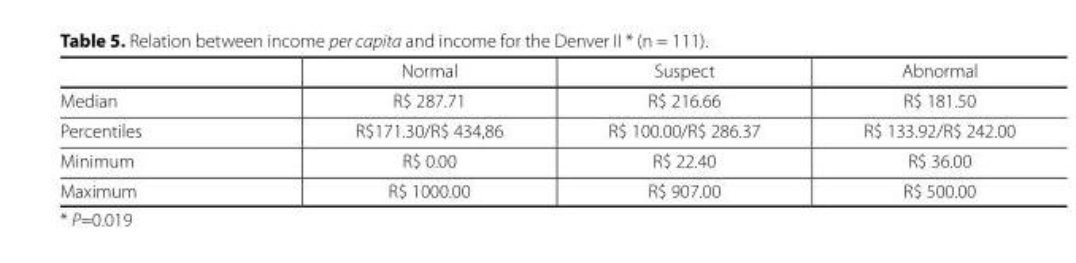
<table><thead><tr><td></td><td>Normal</td><td>Suspect</td><td>Abnormal</td></tr></thead><tbody><tr><td>Median</td><td>R$ 287.71</td><td>R$ 216.66</td><td>R$ 181.50</td></tr><tr><td>Percentiles</td><td>R$171.30/R$ 434,86</td><td>R$ 100.00/R$ 286.37</td><td>R$ 133.92/R$ 242.00</td></tr><tr><td>Minimum</td><td>R$ 0.00</td><td>R$ 22.40</td><td>R$ 36.00</td></tr><tr><td>Maximum</td><td>R$ 1000.00</td><td>R$ 907.00</td><td>R$ 500.00</td></tr></tbody></table>